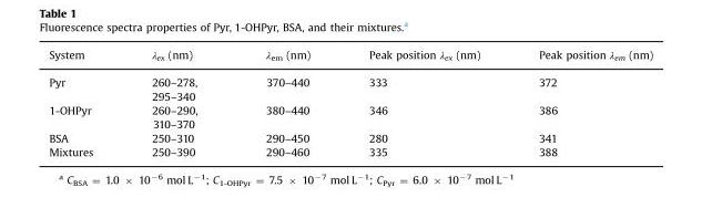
<table><thead><tr><td>System</td><td>λ<sub>ex</sub> (nm)</td><td>λ<sub>em</sub> (nm)</td><td>Peak position λ<sub>ex</sub> (nm)</td><td>Peak position λ<sub>em</sub> (nm)</td></tr></thead><tbody><tr><td rowspan="2">Pyr</td><td>260–278,</td><td rowspan="2">370–440</td><td rowspan="2">333</td><td rowspan="2">372</td></tr><tr><td>295–340</td></tr><tr><td rowspan="2">1-OHPyr</td><td>260–290,</td><td rowspan="2">380–440</td><td rowspan="2">346</td><td rowspan="2">386</td></tr><tr><td>310–370</td></tr><tr><td>BSA</td><td>250–310</td><td>290–450</td><td>280</td><td>341</td></tr><tr><td>Mixtures</td><td>250–390</td><td>290–460</td><td>335</td><td>388</td></tr></tbody></table>